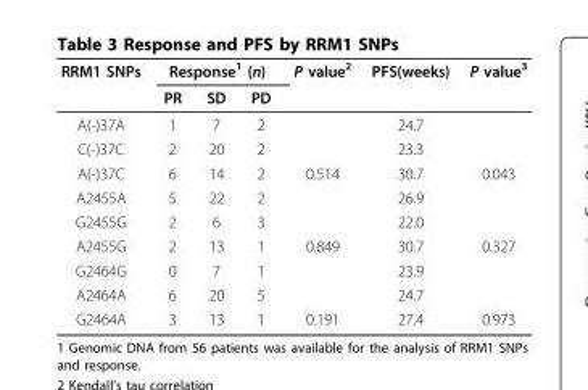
<table><thead><tr><td rowspan="2">RRM1 SNPs</td><td colspan="3">Response<sup>1</sup> (n)</td><td rowspan="2">P value<sup>2</sup></td><td rowspan="2">PFS(weeks)</td><td rowspan="2">P value<sup>3</sup></td></tr><tr><td>PR</td><td>SD</td><td>PD</td></tr></thead><tbody><tr><td>A(-)37A</td><td>1</td><td>7</td><td>2</td><td></td><td>24.7</td><td></td></tr><tr><td>C(-)37C</td><td>2</td><td>20</td><td>2</td><td></td><td>23.3</td><td></td></tr><tr><td>A(-)37C</td><td>6</td><td>14</td><td>2</td><td>0.514</td><td>30.7</td><td>0.043</td></tr><tr><td>A2455A</td><td>5</td><td>22</td><td>2</td><td></td><td>26.9</td><td></td></tr><tr><td>G2455G</td><td>2</td><td>6</td><td>3</td><td></td><td>22.0</td><td></td></tr><tr><td>A2455G</td><td>2</td><td>13</td><td>1</td><td>0.849</td><td>30.7</td><td>0.327</td></tr><tr><td>G2464G</td><td>0</td><td>7</td><td>1</td><td></td><td>23.9</td><td></td></tr><tr><td>A2464A</td><td>6</td><td>20</td><td>5</td><td></td><td>24.7</td><td></td></tr><tr><td>G2464A</td><td>3</td><td>13</td><td>1</td><td>0.191</td><td>27.4</td><td>0.973</td></tr></tbody></table>